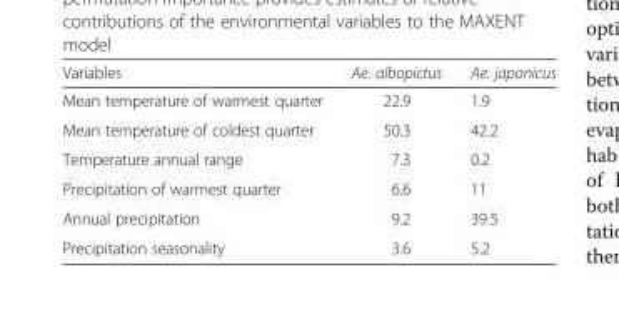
<table><thead><tr><td>Variables</td><td>Ae. albopictus</td><td>Ae. japonicus</td></tr></thead><tbody><tr><td>Mean temperature of warmest quarter</td><td>22.9</td><td>1.9</td></tr><tr><td>Mean temperature of coldest quarter</td><td>50.3</td><td>42.2</td></tr><tr><td>Temperature annual range</td><td>7.3</td><td>0.2</td></tr><tr><td>Precipitation of warmest quarter</td><td>6.6</td><td>11</td></tr><tr><td>Annual precipitation</td><td>9.2</td><td>39.5</td></tr><tr><td>Precipitation seasonality</td><td>3.6</td><td>5.2</td></tr></tbody></table>